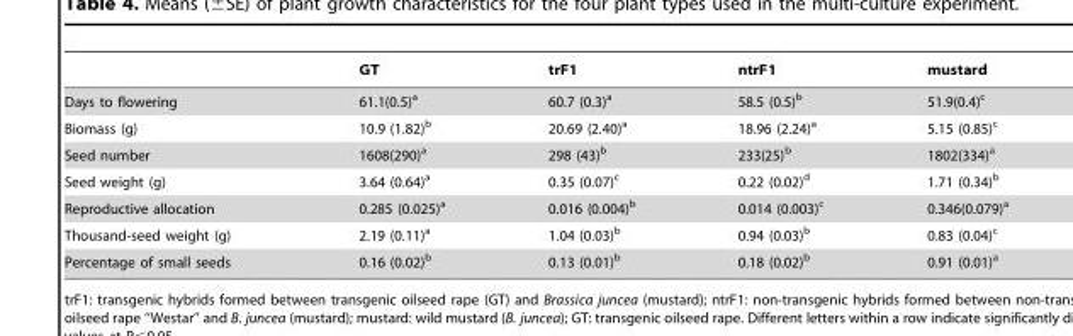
<table><thead><tr><td></td><td>GT</td><td>trF1</td><td>ntrF1</td><td>mustard</td></tr></thead><tbody><tr><td>Days to flowering</td><td>61.1(0.5)<sup>a</sup></td><td>60.7 (0.3)<sup>a</sup></td><td>58.5 (0.5)<sup>b</sup></td><td>51.9(0.4)<sup>c</sup></td></tr><tr><td>Biomass (g)</td><td>10.9 (1.82)<sup>b</sup></td><td>20.69 (2.40)<sup>a</sup></td><td>18.96 (2.24)<sup>a</sup></td><td>5.15 (0.85)<sup>c</sup></td></tr><tr><td>Seed number</td><td>1608(290)<sup>a</sup></td><td>298 (43)<sup>b</sup></td><td>233(25)<sup>b</sup></td><td>1802(334)<sup>a</sup></td></tr><tr><td>Seed weight (g)</td><td>3.64 (0.64)<sup>a</sup></td><td>0.35 (0.07)<sup>c</sup></td><td>0.22 (0.02)<sup>d</sup></td><td>1.71 (0.34)<sup>b</sup></td></tr><tr><td>Reproductive allocation</td><td>0.285 (0.025)<sup>a</sup></td><td>0.016 (0.004)<sup>b</sup></td><td>0.014 (0.003)<sup>c</sup></td><td>0.346(0.079)<sup>a</sup></td></tr><tr><td>Thousand-seed weight (g)</td><td>2.19 (0.11)<sup>a</sup></td><td>1.04 (0.03)<sup>b</sup></td><td>0.94 (0.03)<sup>b</sup></td><td>0.83 (0.04)<sup>c</sup></td></tr><tr><td>Percentage of small seeds</td><td>0.16 (0.02)<sup>b</sup></td><td>0.13 (0.01)<sup>b</sup></td><td>0.18 (0.02)<sup>b</sup></td><td>0.91 (0.01)<sup>a</sup></td></tr></tbody></table>